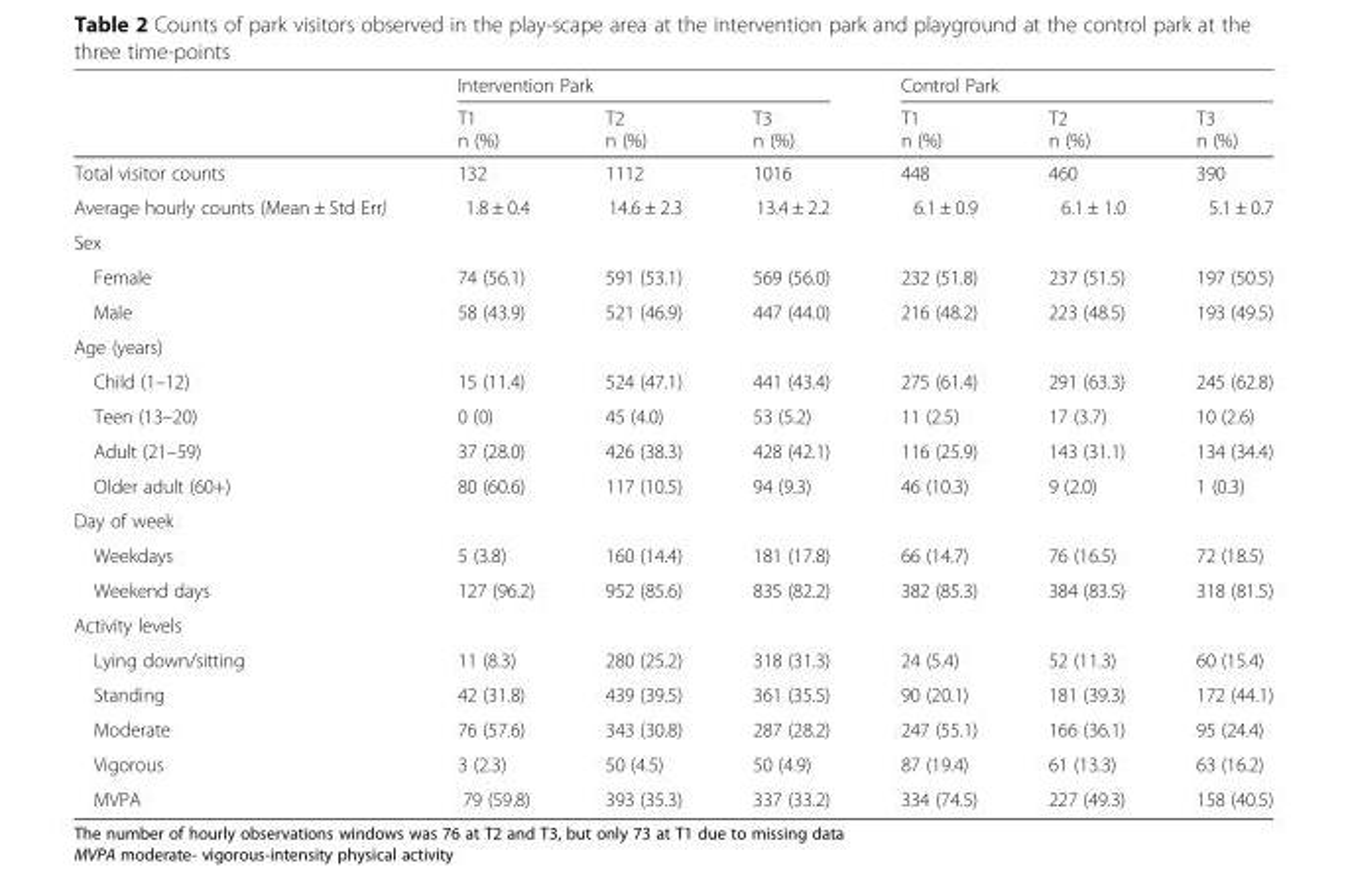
<table><thead><tr><td rowspan="2"></td><td colspan="3">Intervention Park</td><td colspan="3">Control Park</td></tr><tr><td>T1 n (%)</td><td>T2 n (%)</td><td>T3 n (%)</td><td>T1 n (%)</td><td>T2 n (%)</td><td>T3 n (%)</td></tr></thead><tbody><tr><td>Total visitor counts</td><td>132</td><td>1112</td><td>1016</td><td>448</td><td>460</td><td>390</td></tr><tr><td>Average hourly counts (Mean ± Std Err)</td><td>1.8 ± 0.4</td><td>14.6 ± 2.3</td><td>13.4 ± 2.2</td><td>6.1 ± 0.9</td><td>6.1 ± 1.0</td><td>5.1 ± 0.7</td></tr><tr><td colspan="7">Sex</td></tr><tr><td>Female</td><td>74 (56.1)</td><td>591 (53.1)</td><td>569 (56.0)</td><td>232 (51.8)</td><td>237 (51.5)</td><td>197 (50.5)</td></tr><tr><td>Male</td><td>58 (43.9)</td><td>521 (46.9)</td><td>447 (44.0)</td><td>216 (48.2)</td><td>223 (48.5)</td><td>193 (49.5)</td></tr><tr><td colspan="7">Age (years)</td></tr><tr><td>Child (1–12)</td><td>15 (11.4)</td><td>524 (47.1)</td><td>441 (43.4)</td><td>275 (61.4)</td><td>291 (63.3)</td><td>245 (62.8)</td></tr><tr><td>Teen (13–20)</td><td>0 (0)</td><td>45 (4.0)</td><td>53 (5.2)</td><td>11 (2.5)</td><td>17 (3.7)</td><td>10 (2.6)</td></tr><tr><td>Adult (21–59)</td><td>37 (28.0)</td><td>426 (38.3)</td><td>428 (42.1)</td><td>116 (25.9)</td><td>143 (31.1)</td><td>134 (34.4)</td></tr><tr><td>Older adult (60+)</td><td>80 (60.6)</td><td>117 (10.5)</td><td>94 (9.3)</td><td>46 (10.3)</td><td>9 (2.0)</td><td>1 (0.3)</td></tr><tr><td colspan="7">Day of week</td></tr><tr><td>Weekdays</td><td>5 (3.8)</td><td>160 (14.4)</td><td>181 (17.8)</td><td>66 (14.7)</td><td>76 (16.5)</td><td>72 (18.5)</td></tr><tr><td>Weekend days</td><td>127 (96.2)</td><td>952 (85.6)</td><td>835 (82.2)</td><td>382 (85.3)</td><td>384 (83.5)</td><td>318 (81.5)</td></tr><tr><td colspan="7">Activity levels</td></tr><tr><td>Lying down/sitting</td><td>11 (8.3)</td><td>280 (25.2)</td><td>318 (31.3)</td><td>24 (5.4)</td><td>52 (11.3)</td><td>60 (15.4)</td></tr><tr><td>Standing</td><td>42 (31.8)</td><td>439 (39.5)</td><td>361 (35.5)</td><td>90 (20.1)</td><td>181 (39.3)</td><td>172 (44.1)</td></tr><tr><td>Moderate</td><td>76 (57.6)</td><td>343 (30.8)</td><td>287 (28.2)</td><td>247 (55.1)</td><td>166 (36.1)</td><td>95 (24.4)</td></tr><tr><td>Vigorous</td><td>3 (2.3)</td><td>50 (4.5)</td><td>50 (4.9)</td><td>87 (19.4)</td><td>61 (13.3)</td><td>63 (16.2)</td></tr><tr><td>MVPA</td><td>79 (59.8)</td><td>393 (35.3)</td><td>337 (33.2)</td><td>334 (74.5)</td><td>227 (49.3)</td><td>158 (40.5)</td></tr></tbody></table>